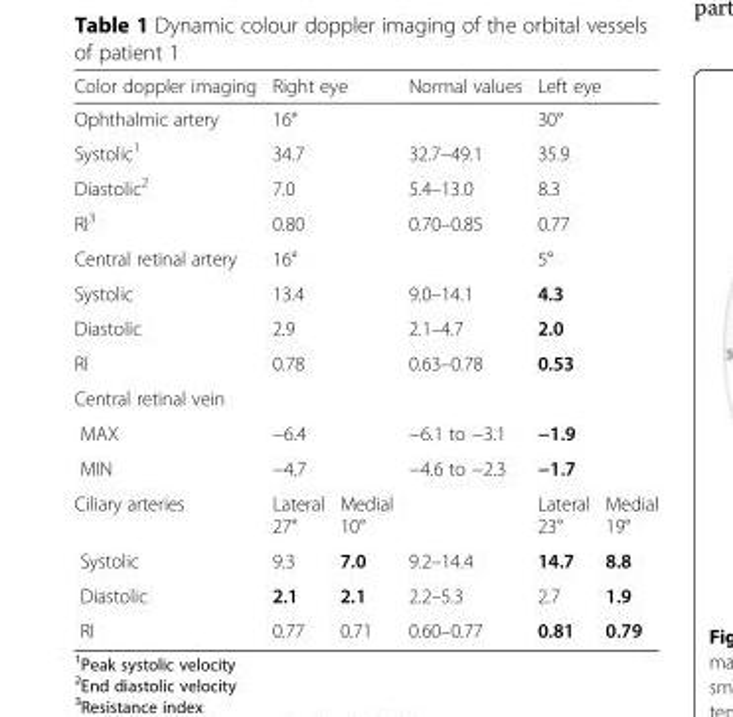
<table><thead><tr><td>Color doppler imaging</td><td colspan="2">Right eye</td><td>Normal values</td><td colspan="2">Left eye</td></tr></thead><tbody><tr><td>Ophthalmic artery</td><td colspan="3">16°</td><td colspan="2">30°</td></tr><tr><td>Systolic<sup>1</sup></td><td colspan="2">34.7</td><td>32.7–49.1</td><td colspan="2">35.9</td></tr><tr><td>Diastolic<sup>2</sup></td><td colspan="2">7.0</td><td>5.4–13.0</td><td colspan="2">8.3</td></tr><tr><td>RI<sup>3</sup></td><td colspan="2">0.80</td><td>0.70–0.85</td><td colspan="2">0.77</td></tr><tr><td>Central retinal artery</td><td colspan="3">16°</td><td colspan="2">5°</td></tr><tr><td>Systolic</td><td colspan="2">13.4</td><td>9.0–14.1</td><td colspan="2">4.3</td></tr><tr><td>Diastolic</td><td colspan="2">2.9</td><td>2.1–4.7</td><td colspan="2">2.0</td></tr><tr><td>RI</td><td colspan="2">0.78</td><td>0.63–0.78</td><td colspan="2">0.53</td></tr><tr><td colspan="6">Central retinal vein</td></tr><tr><td>MAX</td><td colspan="2">−6.4</td><td>−6.1 to −3.1</td><td colspan="2">−1.9</td></tr><tr><td>MIN</td><td colspan="2">−4.7</td><td>−4.6 to −2.3</td><td colspan="2">−1.7</td></tr><tr><td>Ciliary arteries</td><td>Lateral 27°</td><td>Medial 10°</td><td></td><td>Lateral 23°</td><td>Medial 19°</td></tr><tr><td>Systolic</td><td>9.3</td><td>7.0</td><td>9.2–14.4</td><td>14.7</td><td>8.8</td></tr><tr><td>Diastolic</td><td>2.1</td><td>2.1</td><td>2.2–5.3</td><td>2.7</td><td>1.9</td></tr><tr><td>RI</td><td>0.77</td><td>0.71</td><td>0.60–0.77</td><td>0.81</td><td>0.79</td></tr></tbody></table>